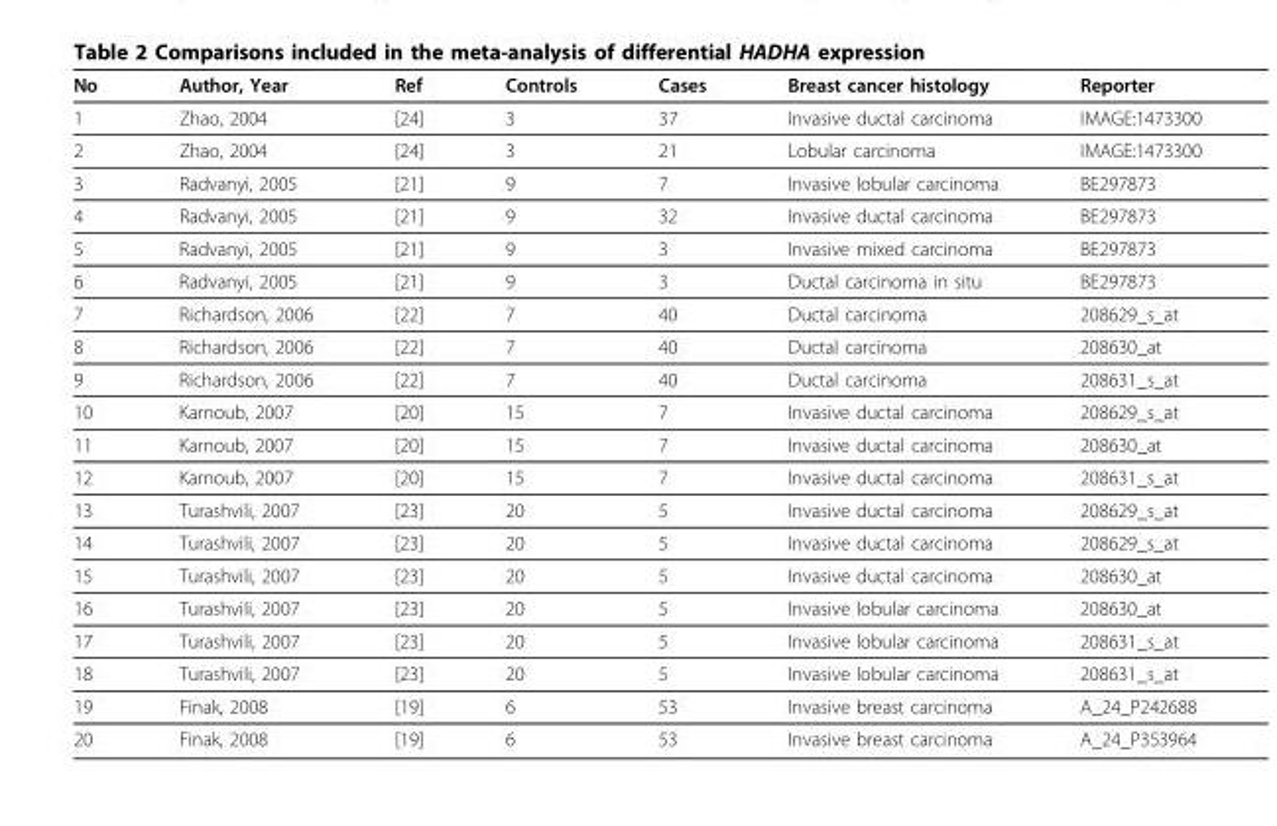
<table><thead><tr><td>No</td><td>Author, Year</td><td>Ref</td><td>Controls</td><td>Cases</td><td>Breast cancer histology</td><td>Reporter</td></tr></thead><tbody><tr><td>1</td><td>Zhao, 2004</td><td>[24]</td><td>3</td><td>37</td><td>Invasive ductal carcinoma</td><td>IMAGE:1473300</td></tr><tr><td>2</td><td>Zhao, 2004</td><td>[24]</td><td>3</td><td>21</td><td>Lobular carcinoma</td><td>IMAGE:1473300</td></tr><tr><td>3</td><td>Radvanyi, 2005</td><td>[21]</td><td>9</td><td>7</td><td>Invasive lobular carcinoma</td><td>BE297873</td></tr><tr><td>4</td><td>Radvanyi, 2005</td><td>[21]</td><td>9</td><td>32</td><td>Invasive ductal carcinoma</td><td>BE297873</td></tr><tr><td>5</td><td>Radvanyi, 2005</td><td>[21]</td><td>9</td><td>3</td><td>Invasive mixed carcinoma</td><td>BE297873</td></tr><tr><td>6</td><td>Radvanyi, 2005</td><td>[21]</td><td>9</td><td>3</td><td>Ductal carcinoma in situ</td><td>BE297873</td></tr><tr><td>7</td><td>Richardson, 2006</td><td>[22]</td><td>7</td><td>40</td><td>Ductal carcinoma</td><td>208629_s_at</td></tr><tr><td>8</td><td>Richardson, 2006</td><td>[22]</td><td>7</td><td>40</td><td>Ductal carcinoma</td><td>208630_at</td></tr><tr><td>9</td><td>Richardson, 2006</td><td>[22]</td><td>7</td><td>40</td><td>Ductal carcinoma</td><td>208631_s_at</td></tr><tr><td>10</td><td>Karnoub, 2007</td><td>[20]</td><td>15</td><td>7</td><td>Invasive ductal carcinoma</td><td>208629_s_at</td></tr><tr><td>11</td><td>Karnoub, 2007</td><td>[20]</td><td>15</td><td>7</td><td>Invasive ductal carcinoma</td><td>208630_at</td></tr><tr><td>12</td><td>Karnoub, 2007</td><td>[20]</td><td>15</td><td>7</td><td>Invasive ductal carcinoma</td><td>208631_s_at</td></tr><tr><td>13</td><td>Turashvili, 2007</td><td>[23]</td><td>20</td><td>5</td><td>Invasive ductal carcinoma</td><td>208629_s_at</td></tr><tr><td>14</td><td>Turashvili, 2007</td><td>[23]</td><td>20</td><td>5</td><td>Invasive ductal carcinoma</td><td>208629_s_at</td></tr><tr><td>15</td><td>Turashvili, 2007</td><td>[23]</td><td>20</td><td>5</td><td>Invasive ductal carcinoma</td><td>208630_at</td></tr><tr><td>16</td><td>Turashvili, 2007</td><td>[23]</td><td>20</td><td>5</td><td>Invasive lobular carcinoma</td><td>208630_at</td></tr><tr><td>17</td><td>Turashvili, 2007</td><td>[23]</td><td>20</td><td>5</td><td>Invasive lobular carcinoma</td><td>208631_s_at</td></tr><tr><td>18</td><td>Turashvili, 2007</td><td>[23]</td><td>20</td><td>5</td><td>Invasive lobular carcinoma</td><td>208631_s_at</td></tr><tr><td>19</td><td>Finak, 2008</td><td>[19]</td><td>6</td><td>53</td><td>Invasive breast carcinoma</td><td>A_24_P242688</td></tr><tr><td>20</td><td>Finak, 2008</td><td>[19]</td><td>6</td><td>53</td><td>Invasive breast carcinoma</td><td>A_24_P353964</td></tr></tbody></table>